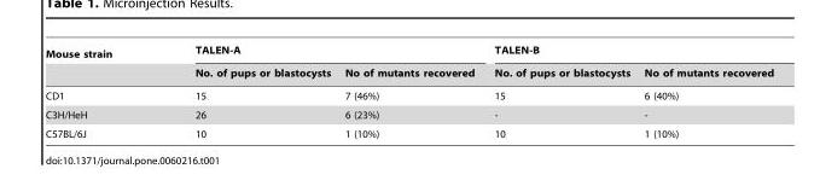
<table><thead><tr><td rowspan="2">Mouse strain</td><td colspan="2">TALEN-A</td><td colspan="2">TALEN-B</td></tr><tr><td>No. of pups or blastocysts</td><td>No of mutants recovered</td><td>No. of pups or blastocysts</td><td>No of mutants recovered</td></tr></thead><tbody><tr><td>CD1</td><td>15</td><td>7 (46%)</td><td>15</td><td>6 (40%)</td></tr><tr><td>C3H/HeH</td><td>26</td><td>6 (23%)</td><td>-</td><td>-</td></tr><tr><td>C57BL/6J</td><td>10</td><td>1 (10%)</td><td>10</td><td>1 (10%)</td></tr></tbody></table>